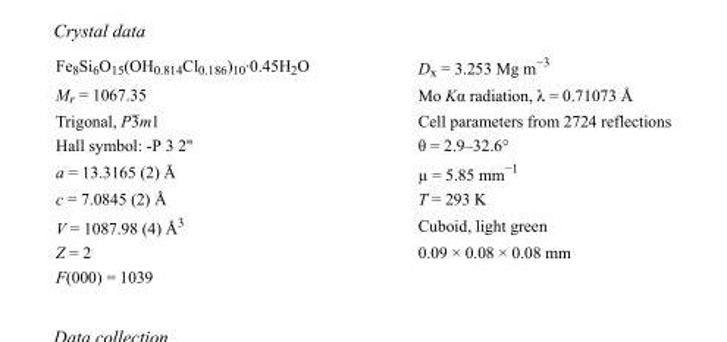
<table><tbody><tr><td>Fe<sub>8</sub>Si<sub>6</sub>O<sub>15</sub>(OH<sub>0.814</sub>Cl<sub>0.186</sub>)<sub>10</sub>·0.45H<sub>2</sub>O</td><td>D<sub>x</sub> = 3.253 Mg m<sup>−3</sup></td></tr><tr><td>M<sub>r</sub> = 1067.35</td><td>Mo Kα radiation, λ = 0.71073 Å</td></tr><tr><td>Trigonal, P3m1</td><td>Cell parameters from 2724 reflections</td></tr><tr><td>Hall symbol: -P 3 2&quot;</td><td>θ = 2.9–32.6°</td></tr><tr><td>a = 13.3165 (2) Å</td><td>µ = 5.85 mm<sup>−1</sup></td></tr><tr><td>c = 7.0845 (2) Å</td><td>T = 293 K</td></tr><tr><td>V = 1087.98 (4) Å<sup>3</sup></td><td>Cuboid, light green</td></tr><tr><td>Z = 2</td><td>0.09 × 0.08 × 0.08 mm</td></tr><tr><td>F(000) = 1039</td><td></td></tr></tbody></table>